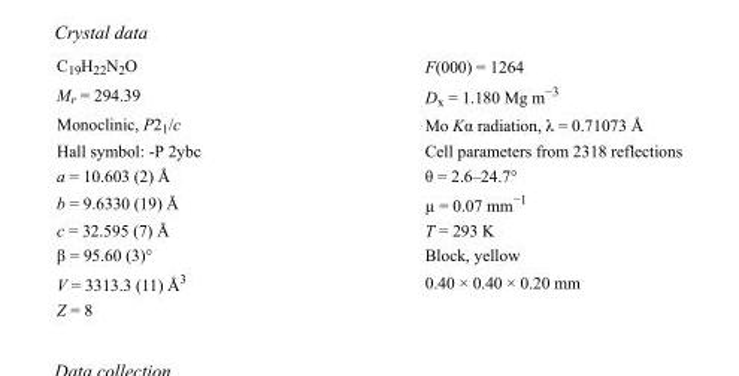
<table><tbody><tr><td>C<sub>19</sub>H<sub>22</sub>N<sub>2</sub>O</td><td>F(000) = 1264</td></tr><tr><td>M<sub>r</sub> = 294.39</td><td>D<sub>x</sub> = 1.180 Mg m<sup>−3</sup></td></tr><tr><td>Monoclinic, P2<sub>1</sub>/c</td><td>Mo Kα radiation, λ = 0.71073 Å</td></tr><tr><td>Hall symbol: -P 2ybc</td><td>Cell parameters from 2318 reflections</td></tr><tr><td>a = 10.603 (2) Å</td><td>θ = 2.6–24.7°</td></tr><tr><td>b = 9.6330 (19) Å</td><td>µ = 0.07 mm<sup>−1</sup></td></tr><tr><td>c = 32.595 (7) Å</td><td>T = 293 K</td></tr><tr><td>β = 95.60 (3)°</td><td>Block, yellow</td></tr><tr><td>V = 3313.3 (11) Å<sup>3</sup></td><td>0.40 × 0.40 × 0.20 mm</td></tr><tr><td>Z = 8</td><td></td></tr></tbody></table>